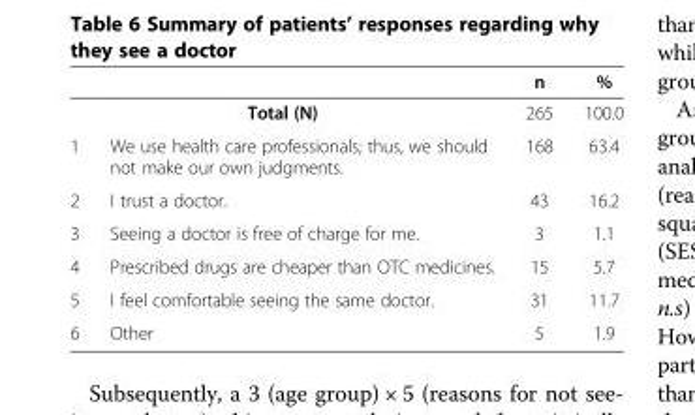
<table><thead><tr><td></td><td></td><td>n</td><td>%</td></tr></thead><tbody><tr><td></td><td>Total (N)</td><td>265</td><td>100.0</td></tr><tr><td>1</td><td>We use health care professionals; thus, we should not make our own judgments.</td><td>168</td><td>63.4</td></tr><tr><td>2</td><td>I trust a doctor.</td><td>43</td><td>16.2</td></tr><tr><td>3</td><td>Seeing a doctor is free of charge for me.</td><td>3</td><td>1.1</td></tr><tr><td>4</td><td>Prescribed drugs are cheaper than OTC medicines.</td><td>15</td><td>5.7</td></tr><tr><td>5</td><td>I feel comfortable seeing the same doctor.</td><td>31</td><td>11.7</td></tr><tr><td>6</td><td>Other</td><td>5</td><td>1.9</td></tr></tbody></table>